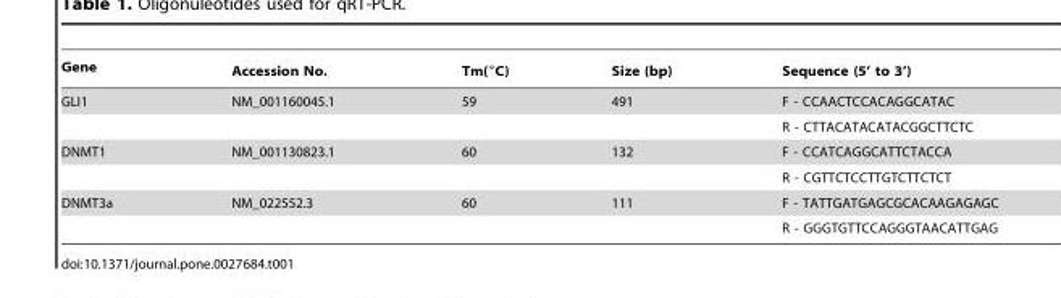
<table><thead><tr><td>Gene</td><td>Accession No.</td><td>Tm(°C)</td><td>Size (bp)</td><td>Sequence (5’ to 3’)</td></tr></thead><tbody><tr><td rowspan="2">GLI1</td><td>NM_001160045.1</td><td>59</td><td>491</td><td>F - CCAACTCCACAGGCATAC</td></tr><tr><td></td><td></td><td></td><td>R - CTTACATACATACGGCTTCTC</td></tr><tr><td rowspan="2">DNMT1</td><td>NM_001130823.1</td><td>60</td><td>132</td><td>F - CCATCAGGCATTCTACCA</td></tr><tr><td></td><td></td><td></td><td>R - CGTTCTCCTTGTCTTCTCT</td></tr><tr><td rowspan="2">DNMT3a</td><td>NM_022552.3</td><td>60</td><td>111</td><td>F - TATTGATGAGCGCACAAGAGAGC</td></tr><tr><td></td><td></td><td></td><td>R - GGGTGTTCCAGGGTAACATTGAG</td></tr></tbody></table>